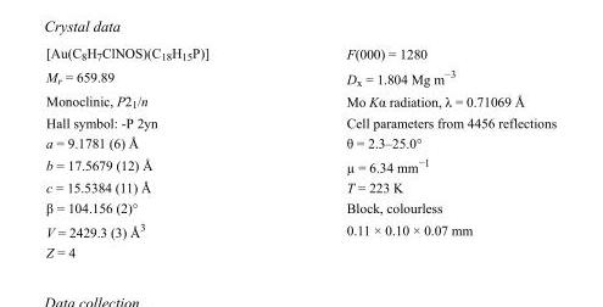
<table><tbody><tr><td>[Au(C<sub>8</sub>H<sub>7</sub>ClNOS)(C<sub>18</sub>H<sub>15</sub>P)]</td><td>F(000) = 1280</td></tr><tr><td>M<sub>r</sub> = 659.89</td><td>D<sub>x</sub> = 1.804 Mg m<sup>−3</sup></td></tr><tr><td>Monoclinic, P2<sub>1</sub>/n</td><td>Mo Kα radiation, λ = 0.71069 Å</td></tr><tr><td>Hall symbol: -P 2yn</td><td>Cell parameters from 4456 reflections</td></tr><tr><td>a = 9.1781 (6) Å</td><td>θ = 2.3–25.0°</td></tr><tr><td>b = 17.5679 (12) Å</td><td>µ = 6.34 mm<sup>−1</sup></td></tr><tr><td>c = 15.5384 (11) Å</td><td>T = 223 K</td></tr><tr><td>β = 104.156 (2)°</td><td>Block, colourless</td></tr><tr><td>V = 2429.3 (3) Å<sup>3</sup></td><td>0.11 × 0.10 × 0.07 mm</td></tr><tr><td>Z = 4</td><td></td></tr></tbody></table>